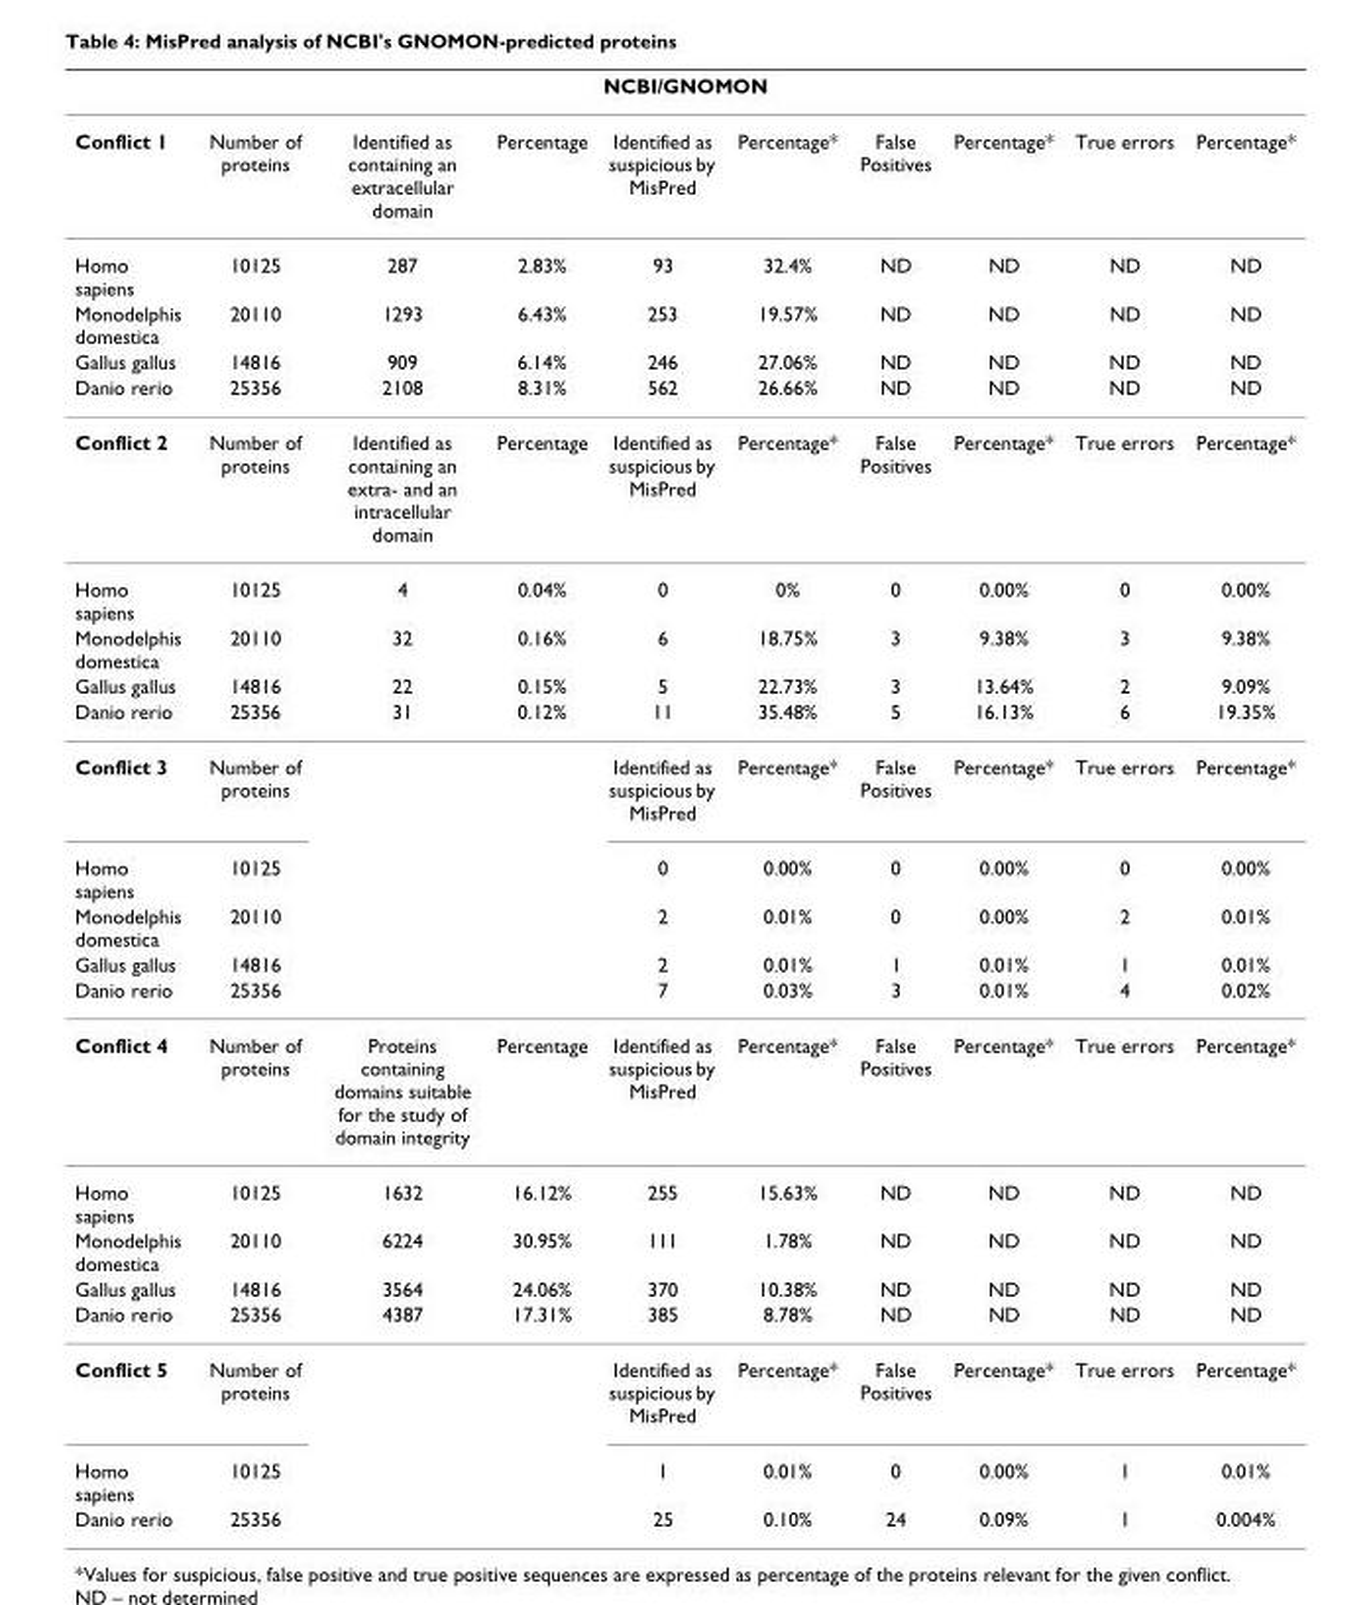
<table><thead><tr><td colspan="10">NCBI/GNOMON</td></tr><tr><td>Conflict 1</td><td>Number of proteins</td><td>Identified as containing an extracellular domain</td><td>Percentage</td><td>Identified as suspicious by MisPred</td><td>Percentage*</td><td>False Positives</td><td>Percentage*</td><td>True errors</td><td>Percentage*</td></tr></thead><tbody><tr><td>Homo sapiens</td><td>10125</td><td>287</td><td>2.83%</td><td>93</td><td>32.4%</td><td>ND</td><td>ND</td><td>ND</td><td>ND</td></tr><tr><td>Monodelphis domestica</td><td>20110</td><td>1293</td><td>6.43%</td><td>253</td><td>19.57%</td><td>ND</td><td>ND</td><td>ND</td><td>ND</td></tr><tr><td>Gallus gallus</td><td>14816</td><td>909</td><td>6.14%</td><td>246</td><td>27.06%</td><td>ND</td><td>ND</td><td>ND</td><td>ND</td></tr><tr><td>Danio rerio</td><td>25356</td><td>2108</td><td>8.31%</td><td>562</td><td>26.66%</td><td>ND</td><td>ND</td><td>ND</td><td>ND</td></tr><tr><td>Conflict 2</td><td>Number of proteins</td><td>Identified as containing an extra- and an intracellular domain</td><td>Percentage</td><td>Identified as suspicious by MisPred</td><td>Percentage*</td><td>False Positives</td><td>Percentage*</td><td>True errors</td><td>Percentage*</td></tr><tr><td>Homo sapiens</td><td>10125</td><td>4</td><td>0.04%</td><td>0</td><td>0%</td><td>0</td><td>0.00%</td><td>0</td><td>0.00%</td></tr><tr><td>Monodelphis domestica</td><td>20110</td><td>32</td><td>0.16%</td><td>6</td><td>18.75%</td><td>3</td><td>9.38%</td><td>3</td><td>9.38%</td></tr><tr><td>Gallus gallus</td><td>14816</td><td>22</td><td>0.15%</td><td>5</td><td>22.73%</td><td>3</td><td>13.64%</td><td>2</td><td>9.09%</td></tr><tr><td>Danio rerio</td><td>25356</td><td>31</td><td>0.12%</td><td>11</td><td>35.48%</td><td>5</td><td>16.13%</td><td>6</td><td>19.35%</td></tr><tr><td>Conflict 3</td><td>Number of proteins</td><td></td><td></td><td>Identified as suspicious by MisPred</td><td>Percentage*</td><td>False Positives</td><td>Percentage*</td><td>True errors</td><td>Percentage*</td></tr><tr><td>Homo sapiens</td><td>10125</td><td></td><td></td><td>0</td><td>0.00%</td><td>0</td><td>0.00%</td><td>0</td><td>0.00%</td></tr><tr><td>Monodelphis domestica</td><td>20110</td><td></td><td></td><td>2</td><td>0.01%</td><td>0</td><td>0.00%</td><td>2</td><td>0.01%</td></tr><tr><td>Gallus gallus</td><td>14816</td><td></td><td></td><td>2</td><td>0.01%</td><td>1</td><td>0.01%</td><td>1</td><td>0.01%</td></tr><tr><td>Danio rerio</td><td>25356</td><td></td><td></td><td>7</td><td>0.03%</td><td>3</td><td>0.01%</td><td>4</td><td>0.02%</td></tr><tr><td>Conflict 4</td><td>Number of proteins</td><td>Proteins containing domains suitable for the study of domain integrity</td><td>Percentage</td><td>Identified as suspicious by MisPred</td><td>Percentage*</td><td>False Positives</td><td>Percentage*</td><td>True errors</td><td>Percentage*</td></tr><tr><td>Homo sapiens</td><td>10125</td><td>1632</td><td>16.12%</td><td>255</td><td>15.63%</td><td>ND</td><td>ND</td><td>ND</td><td>ND</td></tr><tr><td>Monodelphis domestica</td><td>20110</td><td>6224</td><td>30.95%</td><td>111</td><td>1.78%</td><td>ND</td><td>ND</td><td>ND</td><td>ND</td></tr><tr><td>Gallus gallus</td><td>14816</td><td>3564</td><td>24.06%</td><td>370</td><td>10.38%</td><td>ND</td><td>ND</td><td>ND</td><td>ND</td></tr><tr><td>Danio rerio</td><td>25356</td><td>4387</td><td>17.31%</td><td>385</td><td>8.78%</td><td>ND</td><td>ND</td><td>ND</td><td>ND</td></tr><tr><td>Conflict 5</td><td>Number of proteins</td><td></td><td></td><td>Identified as suspicious by MisPred</td><td>Percentage*</td><td>False Positives</td><td>Percentage*</td><td>True errors</td><td>Percentage*</td></tr><tr><td>Homo sapiens</td><td>10125</td><td></td><td></td><td>1</td><td>0.01%</td><td>0</td><td>0.00%</td><td>1</td><td>0.01%</td></tr><tr><td>Danio rerio</td><td>25356</td><td></td><td></td><td>25</td><td>0.10%</td><td>24</td><td>0.09%</td><td>1</td><td>0.004%</td></tr></tbody></table>